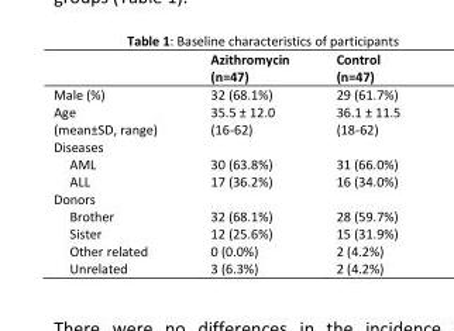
<table><thead><tr><td></td><td>Azithromycin (n=47)</td><td>Control (n=47)</td></tr></thead><tbody><tr><td>Male (%)</td><td>32 (68.1%)</td><td>29 (61.7%)</td></tr><tr><td>Age (mean±SD, range)</td><td>35.5 ± 12.0 (16-62)</td><td>36.1 ± 11.5 (18-62)</td></tr><tr><td colspan="3">Diseases</td></tr><tr><td>AML</td><td>30 (63.8%)</td><td>31 (66.0%)</td></tr><tr><td>ALL</td><td>17 (36.2%)</td><td>16 (34.0%)</td></tr><tr><td colspan="3">Donors</td></tr><tr><td>Brother</td><td>32 (68.1%)</td><td>28 (59.7%)</td></tr><tr><td>Sister</td><td>12 (25.6%)</td><td>15 (31.9%)</td></tr><tr><td>Other related</td><td>0 (0.0%)</td><td>2 (4.2%)</td></tr><tr><td>Unrelated</td><td>3 (6.3%)</td><td>2 (4.2%)</td></tr></tbody></table>